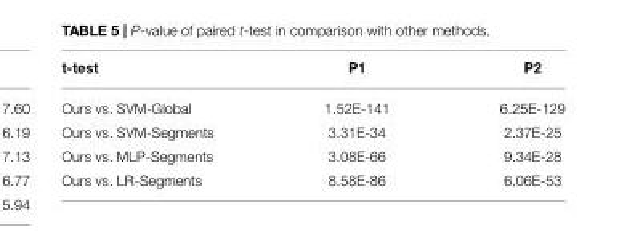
<table><thead><tr><td>t-test</td><td>P1</td><td>P2</td></tr></thead><tbody><tr><td>Ours vs. SVM-Global</td><td>1.52E-141</td><td>6.25E-129</td></tr><tr><td>Ours vs. SVM-Segments</td><td>3.31E-34</td><td>2.37E-25</td></tr><tr><td>Ours vs. MLP-Segments</td><td>3.08E-66</td><td>9.34E-28</td></tr><tr><td>Ours vs. LR-Segments</td><td>8.58E-86</td><td>6.06E-53</td></tr></tbody></table>